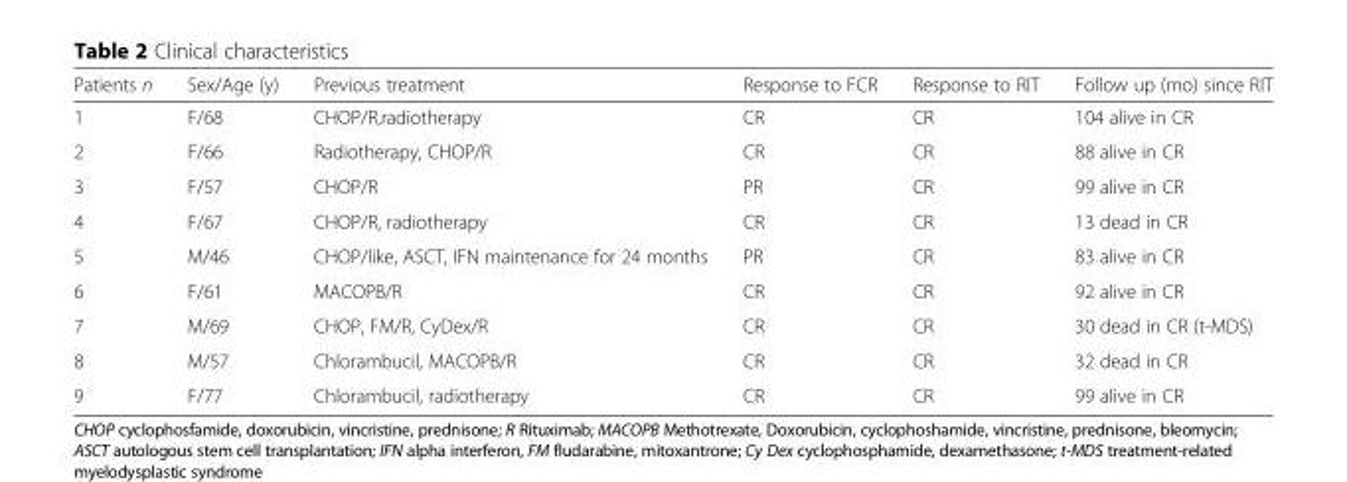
<table><thead><tr><td>Patients n</td><td>Sex/Age (y)</td><td>Previous treatment</td><td>Response to FCR</td><td>Response to RIT</td><td>Follow up (mo) since RIT</td></tr></thead><tbody><tr><td>1</td><td>F/68</td><td>CHOP/R,radiotherapy</td><td>CR</td><td>CR</td><td>104 alive in CR</td></tr><tr><td>2</td><td>F/66</td><td>Radiotherapy, CHOP/R</td><td>CR</td><td>CR</td><td>88 alive in CR</td></tr><tr><td>3</td><td>F/57</td><td>CHOP/R</td><td>PR</td><td>CR</td><td>99 alive in CR</td></tr><tr><td>4</td><td>F/67</td><td>CHOP/R, radiotherapy</td><td>CR</td><td>CR</td><td>13 dead in CR</td></tr><tr><td>5</td><td>M/46</td><td>CHOP/like, ASCT, IFN maintenance for 24 months</td><td>PR</td><td>CR</td><td>83 alive in CR</td></tr><tr><td>6</td><td>F/61</td><td>MACOPB/R</td><td>CR</td><td>CR</td><td>92 alive in CR</td></tr><tr><td>7</td><td>M/69</td><td>CHOP, FM/R, CyDex/R</td><td>CR</td><td>CR</td><td>30 dead in CR (t-MDS)</td></tr><tr><td>8</td><td>M/57</td><td>Chlorambucil, MACOPB/R</td><td>CR</td><td>CR</td><td>32 dead in CR</td></tr><tr><td>9</td><td>F/77</td><td>Chlorambucil, radiotherapy</td><td>CR</td><td>CR</td><td>99 alive in CR</td></tr></tbody></table>